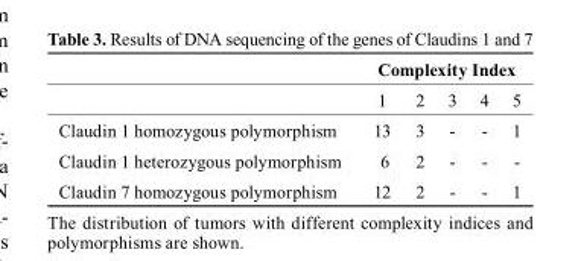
<table><thead><tr><td rowspan="2"></td><td colspan="5">complexity Index</td></tr><tr><td>1</td><td>2</td><td>3</td><td>4</td><td>5</td></tr></thead><tbody><tr><td>Claudin 1 homozygous polymorphism</td><td>13</td><td>3</td><td>-</td><td>-</td><td>1</td></tr><tr><td>Claudin 1 heterozygous polymorphism</td><td>6</td><td>2</td><td>-</td><td>-</td><td>-</td></tr><tr><td>Claudin 7 homozygous polymorphism</td><td>12</td><td>2</td><td>-</td><td>-</td><td>1</td></tr></tbody></table>